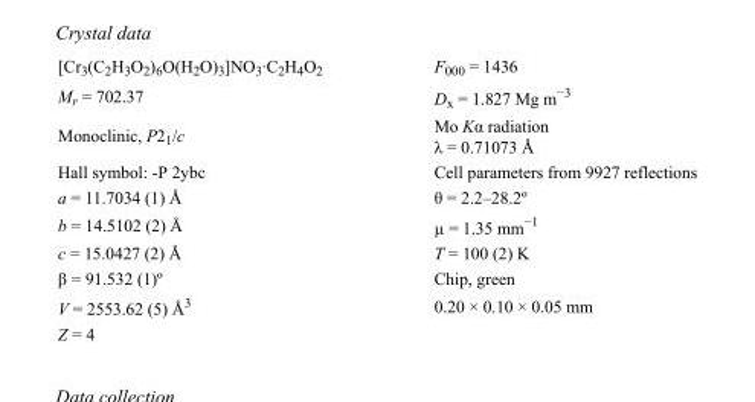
<table><tbody><tr><td>[Cr<sub>3</sub>(C<sub>2</sub>H<sub>3</sub>O<sub>2</sub>)<sub>6</sub>O(H<sub>2</sub>O)<sub>3</sub>]NO<sub>3</sub>·C<sub>2</sub>H<sub>4</sub>O<sub>2</sub></td><td>F000 = 1436</td></tr><tr><td>M<sub>r</sub> = 702.37</td><td>D<sub>x</sub> = 1.827 Mg m<sup>−3</sup></td></tr><tr><td>Monoclinic, P2<sub>1</sub>/c</td><td>Mo Kα radiation λ = 0.71073 Å</td></tr><tr><td>Hall symbol: -P 2ybc</td><td>Cell parameters from 9927 reflections</td></tr><tr><td>a = 11.7034 (1) Å</td><td>θ = 2.2–28.2º</td></tr><tr><td>b = 14.5102 (2) Å</td><td>µ = 1.35 mm<sup>−1</sup></td></tr><tr><td>c = 15.0427 (2) Å</td><td>T = 100 (2) K</td></tr><tr><td>β = 91.532 (1)º</td><td>Chip, green</td></tr><tr><td>V = 2553.62 (5) Å<sup>3</sup></td><td>0.20 × 0.10 × 0.05 mm</td></tr><tr><td>Z = 4</td><td></td></tr></tbody></table>